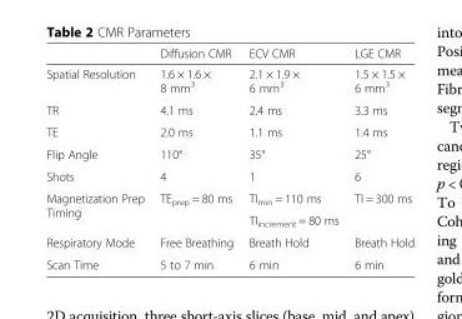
<table><thead><tr><td></td><td>Diffusion CMR</td><td>ECV CMR</td><td>LGE CMR</td></tr></thead><tbody><tr><td>Spatial Resolution</td><td>1.6 × 1.6 × 8 mm<sup>3</sup></td><td>2.1 × 1.9 × 6 mm<sup>3</sup></td><td>1.5 × 1.5 × 6 mm<sup>3</sup></td></tr><tr><td>TR</td><td>4.1 ms</td><td>2.4 ms</td><td>3.3 ms</td></tr><tr><td>TE</td><td>2.0 ms</td><td>1.1 ms</td><td>1.4 ms</td></tr><tr><td>Flip Angle</td><td>110°</td><td>35°</td><td>25°</td></tr><tr><td>Shots</td><td>4</td><td>1</td><td>6</td></tr><tr><td rowspan="2">Magnetization Prep Timing</td><td rowspan="2">TE<sub>prep</sub> = 80 ms</td><td>TI<sub>min</sub> = 110 ms</td><td rowspan="2">TI = 300 ms</td></tr><tr><td>TI<sub>increment</sub> = 80 ms</td></tr><tr><td>Respiratory Mode</td><td>Free Breathing</td><td>Breath Hold</td><td>Breath Hold</td></tr><tr><td>Scan Time</td><td>5 to 7 min</td><td>6 min</td><td>6 min</td></tr></tbody></table>